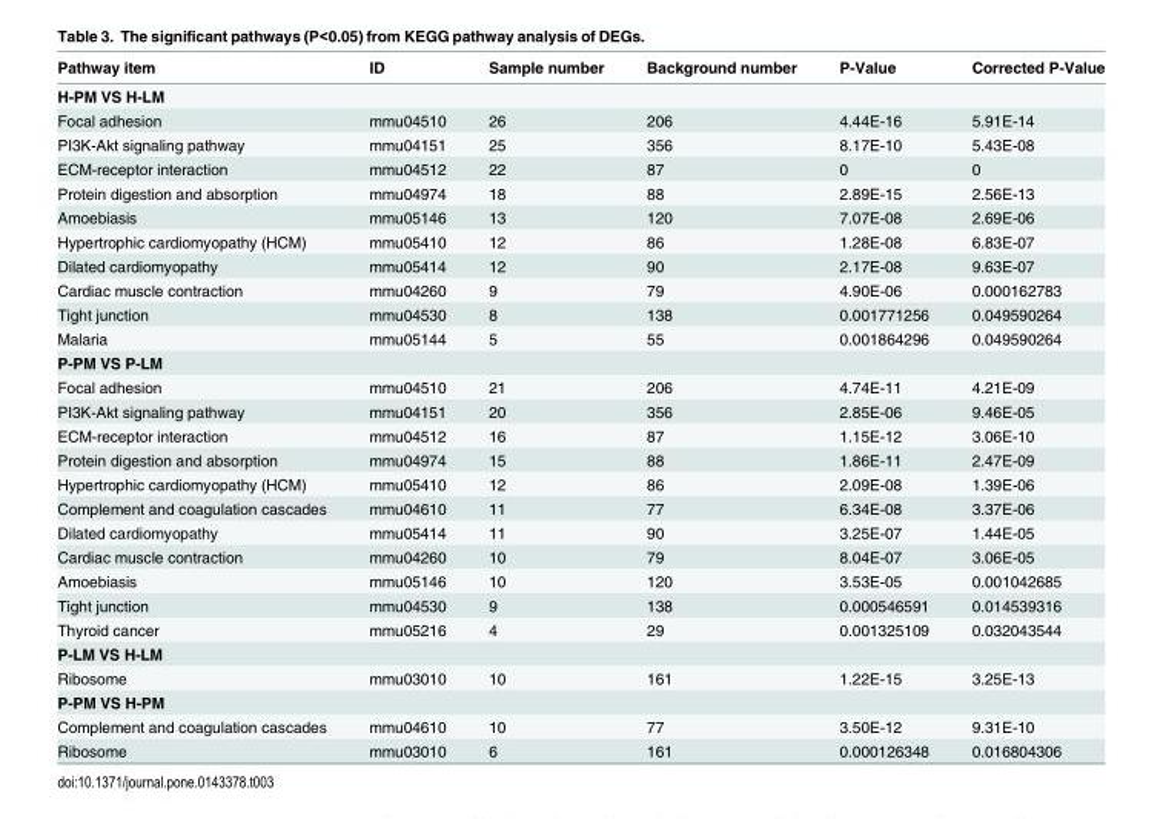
<table><thead><tr><td>Pathway item</td><td>ID</td><td>Sample number</td><td>Background number</td><td>P-Value</td><td>Corrected P-Value</td></tr></thead><tbody><tr><td colspan="6">H-PM VS H-LM</td></tr><tr><td>Focal adhesion</td><td>mmu04510</td><td>26</td><td>206</td><td>4.44E-16</td><td>5.91E-14</td></tr><tr><td>PI3K-Akt signaling pathway</td><td>mmu04151</td><td>25</td><td>356</td><td>8.17E-10</td><td>5.43E-08</td></tr><tr><td>ECM-receptor interaction</td><td>mmu04512</td><td>22</td><td>87</td><td>0</td><td>0</td></tr><tr><td>Protein digestion and absorption</td><td>mmu04974</td><td>18</td><td>88</td><td>2.89E-15</td><td>2.56E-13</td></tr><tr><td>Amoebiasis</td><td>mmu05146</td><td>13</td><td>120</td><td>7.07E-08</td><td>2.69E-06</td></tr><tr><td>Hypertrophic cardiomyopathy (HCM)</td><td>mmu05410</td><td>12</td><td>86</td><td>1.28E-08</td><td>6.83E-07</td></tr><tr><td>Dilated cardiomyopathy</td><td>mmu05414</td><td>12</td><td>90</td><td>2.17E-08</td><td>9.63E-07</td></tr><tr><td>Cardiac muscle contraction</td><td>mmu04260</td><td>9</td><td>79</td><td>4.90E-06</td><td>0.000162783</td></tr><tr><td>Tight junction</td><td>mmu04530</td><td>8</td><td>138</td><td>0.001771256</td><td>0.049590264</td></tr><tr><td>Malaria</td><td>mmu05144</td><td>5</td><td>55</td><td>0.001864296</td><td>0.049590264</td></tr><tr><td colspan="6">P-PM VS P-LM</td></tr><tr><td>Focal adhesion</td><td>mmu04510</td><td>21</td><td>206</td><td>4.74E-11</td><td>4.21E-09</td></tr><tr><td>PI3K-Akt signaling pathway</td><td>mmu04151</td><td>20</td><td>356</td><td>2.85E-06</td><td>9.46E-05</td></tr><tr><td>ECM-receptor interaction</td><td>mmu04512</td><td>16</td><td>87</td><td>1.15E-12</td><td>3.06E-10</td></tr><tr><td>Protein digestion and absorption</td><td>mmu04974</td><td>15</td><td>88</td><td>1.86E-11</td><td>2.47E-09</td></tr><tr><td>Hypertrophic cardiomyopathy (HCM)</td><td>mmu05410</td><td>12</td><td>86</td><td>2.09E-08</td><td>1.39E-06</td></tr><tr><td>Complement and coagulation cascades</td><td>mmu04610</td><td>11</td><td>77</td><td>6.34E-08</td><td>3.37E-06</td></tr><tr><td>Dilated cardiomyopathy</td><td>mmu05414</td><td>11</td><td>90</td><td>3.25E-07</td><td>1.44E-05</td></tr><tr><td>Cardiac muscle contraction</td><td>mmu04260</td><td>10</td><td>79</td><td>8.04E-07</td><td>3.06E-05</td></tr><tr><td>Amoebiasis</td><td>mmu05146</td><td>10</td><td>120</td><td>3.53E-05</td><td>0.001042685</td></tr><tr><td>Tight junction</td><td>mmu04530</td><td>9</td><td>138</td><td>0.000546591</td><td>0.014539316</td></tr><tr><td>Thyroid cancer</td><td>mmu05216</td><td>4</td><td>29</td><td>0.001325109</td><td>0.032043544</td></tr><tr><td colspan="6">P-LM VS H-LM</td></tr><tr><td>Ribosome</td><td>mmu03010</td><td>10</td><td>161</td><td>1.22E-15</td><td>3.25E-13</td></tr><tr><td colspan="6">P-PM VS H-PM</td></tr><tr><td>Complement and coagulation cascades</td><td>mmu04610</td><td>10</td><td>77</td><td>3.50E-12</td><td>9.31E-10</td></tr><tr><td>Ribosome</td><td>mmu03010</td><td>6</td><td>161</td><td>0.000126348</td><td>0.016804306</td></tr></tbody></table>